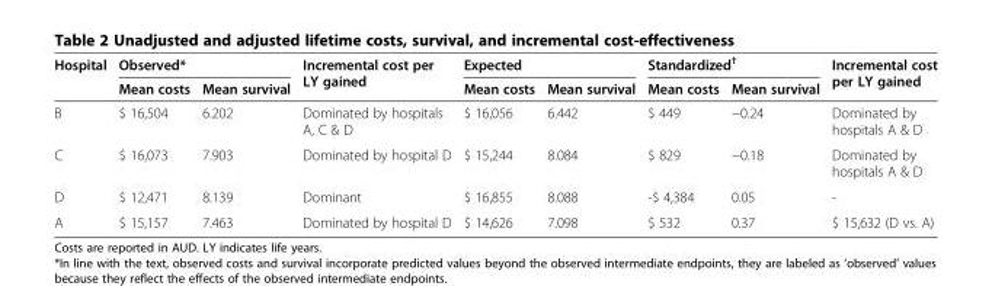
<table><thead><tr><td rowspan="2">Hospital</td><td colspan="2">Observed*</td><td rowspan="2">Incremental cost per LY gained</td><td colspan="2">Expected</td><td colspan="2">Standardized<sup>†</sup></td><td rowspan="2">Incremental cost per LY gained</td></tr><tr><td>Mean costs</td><td>Mean survival</td><td>Mean costs</td><td>Mean survival</td><td>Mean costs</td><td>Mean survival</td></tr></thead><tbody><tr><td>B</td><td>$ 16,504</td><td>6.202</td><td>Dominated by hospitals A, C &amp; D</td><td>$ 16,056</td><td>6.442</td><td>$ 449</td><td>−0.24</td><td>Dominated by hospitals A &amp; D</td></tr><tr><td>C</td><td>$ 16,073</td><td>7.903</td><td>Dominated by hospital D</td><td>$ 15,244</td><td>8.084</td><td>$ 829</td><td>−0.18</td><td>Dominated by hospitals A &amp; D</td></tr><tr><td>D</td><td>$ 12,471</td><td>8.139</td><td>Dominant</td><td>$ 16,855</td><td>8.088</td><td>-$ 4,384</td><td>0.05</td><td>-</td></tr><tr><td>A</td><td>$ 15,157</td><td>7.463</td><td>Dominated by hospital D</td><td>$ 14,626</td><td>7.098</td><td>$ 532</td><td>0.37</td><td>$ 15,632 (D vs. A)</td></tr></tbody></table>